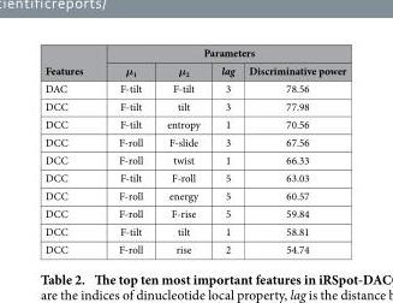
<table><thead><tr><td rowspan="2">Features</td><td colspan="4">Parameters</td></tr><tr><td>μ<sub>1</sub></td><td>μ<sub>2</sub></td><td>lag</td><td>Discriminative power</td></tr></thead><tbody><tr><td>DAC</td><td>F-tilt</td><td>F-tilt</td><td>3</td><td>78.56</td></tr><tr><td>DCC</td><td>F-tilt</td><td>tilt</td><td>3</td><td>77.98</td></tr><tr><td>DCC</td><td>F-tilt</td><td>entropy</td><td>1</td><td>70.56</td></tr><tr><td>DCC</td><td>F-roll</td><td>F-slide</td><td>3</td><td>67.56</td></tr><tr><td>DCC</td><td>F-roll</td><td>twist</td><td>1</td><td>66.33</td></tr><tr><td>DCC</td><td>F-tilt</td><td>F-roll</td><td>5</td><td>63.03</td></tr><tr><td>DCC</td><td>F-roll</td><td>energy</td><td>5</td><td>60.57</td></tr><tr><td>DCC</td><td>F-roll</td><td>F-rise</td><td>5</td><td>59.84</td></tr><tr><td>DCC</td><td>F-tilt</td><td>tilt</td><td>1</td><td>58.81</td></tr><tr><td>DCC</td><td>F-roll</td><td>rise</td><td>2</td><td>54.74</td></tr></tbody></table>